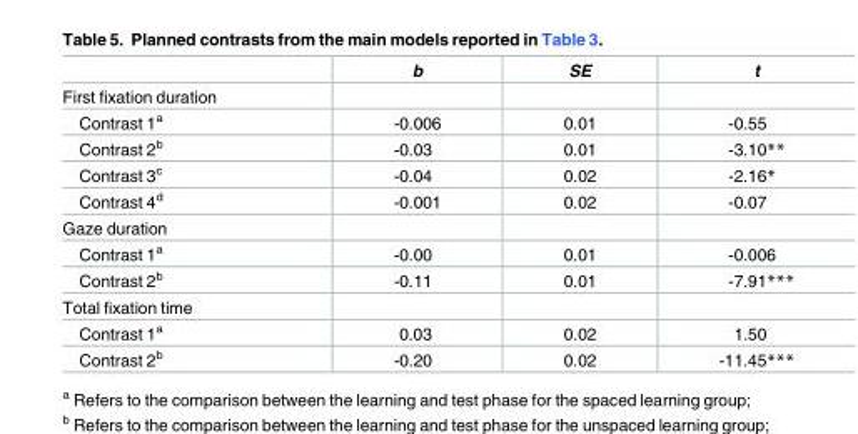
<table><thead><tr><td></td><td>b</td><td>SE</td><td>t</td></tr></thead><tbody><tr><td colspan="4">First fixation duration</td></tr><tr><td>Contrast 1<sup>a</sup></td><td>-0.006</td><td>0.01</td><td>-0.55</td></tr><tr><td>Contrast 2<sup>b</sup></td><td>-0.03</td><td>0.01</td><td>-3.10**</td></tr><tr><td>Contrast 3<sup>c</sup></td><td>-0.04</td><td>0.02</td><td>-2.16*</td></tr><tr><td>Contrast 4<sup>d</sup></td><td>-0.001</td><td>0.02</td><td>-0.07</td></tr><tr><td colspan="4">Gaze duration</td></tr><tr><td>Contrast 1<sup>a</sup></td><td>-0.00</td><td>0.01</td><td>-0.006</td></tr><tr><td>Contrast 2<sup>b</sup></td><td>-0.11</td><td>0.01</td><td>-7.91***</td></tr><tr><td colspan="4">Total fixation time</td></tr><tr><td>Contrast 1<sup>a</sup></td><td>0.03</td><td>0.02</td><td>1.50</td></tr><tr><td>Contrast 2<sup>b</sup></td><td>-0.20</td><td>0.02</td><td>-11.45***</td></tr></tbody></table>